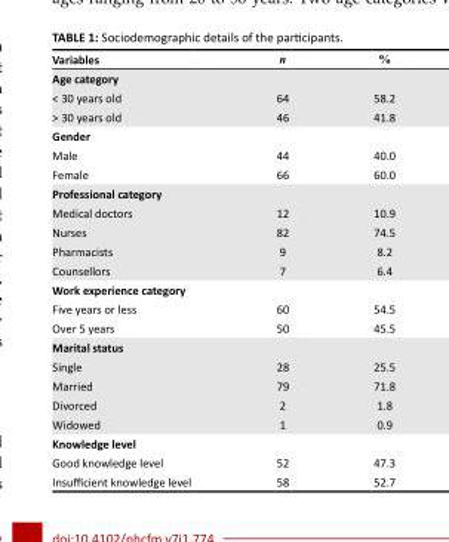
<table><thead><tr><td>Variables</td><td>n</td><td>%</td></tr></thead><tbody><tr><td colspan="3">Age category</td></tr><tr><td>&lt; 30 years old</td><td>64</td><td>58.2</td></tr><tr><td>&gt; 30 years old</td><td>46</td><td>41.8</td></tr><tr><td colspan="3">Gender</td></tr><tr><td>Male</td><td>44</td><td>40.0</td></tr><tr><td>Female</td><td>66</td><td>60.0</td></tr><tr><td colspan="3">Professional category</td></tr><tr><td>Medical doctors</td><td>12</td><td>10.9</td></tr><tr><td>Nurses</td><td>82</td><td>74.5</td></tr><tr><td>Pharmacists</td><td>9</td><td>8.2</td></tr><tr><td>Counsellors</td><td>7</td><td>6.4</td></tr><tr><td colspan="3">Work experience category</td></tr><tr><td>Five years or less</td><td>60</td><td>54.5</td></tr><tr><td>Over 5 years</td><td>50</td><td>45.5</td></tr><tr><td colspan="3">Marital status</td></tr><tr><td>Single</td><td>28</td><td>25.5</td></tr><tr><td>Married</td><td>79</td><td>71.8</td></tr><tr><td>Divorced</td><td>2</td><td>1.8</td></tr><tr><td>Widowed</td><td>1</td><td>0.9</td></tr><tr><td colspan="3">Knowledge level</td></tr><tr><td>Good knowledge level</td><td>52</td><td>47.3</td></tr><tr><td>Insufficient knowledge level</td><td>58</td><td>52.7</td></tr></tbody></table>